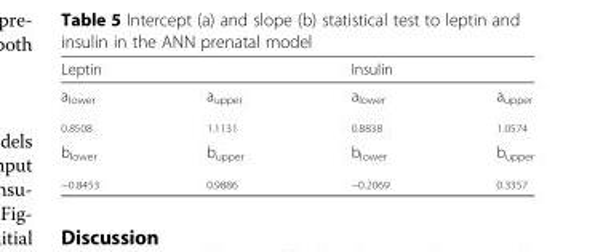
<table><thead><tr><td colspan="2">Leptin</td><td colspan="2">Insulin</td></tr><tr><td>a<sub>lower</sub></td><td>a<sub>upper</sub></td><td>a<sub>lower</sub></td><td>a<sub>upper</sub></td></tr></thead><tbody><tr><td><sub>0.8508</sub></td><td><sub>1.1131</sub></td><td><sub>0.8838</sub></td><td><sub>1.0574</sub></td></tr><tr><td>b<sub>lower</sub></td><td>b<sub>upper</sub></td><td>b<sub>lower</sub></td><td>b<sub>upper</sub></td></tr><tr><td><sub>−0.8453</sub></td><td><sub>0.9886</sub></td><td><sub>−0.2069</sub></td><td><sub>0.3357</sub></td></tr></tbody></table>